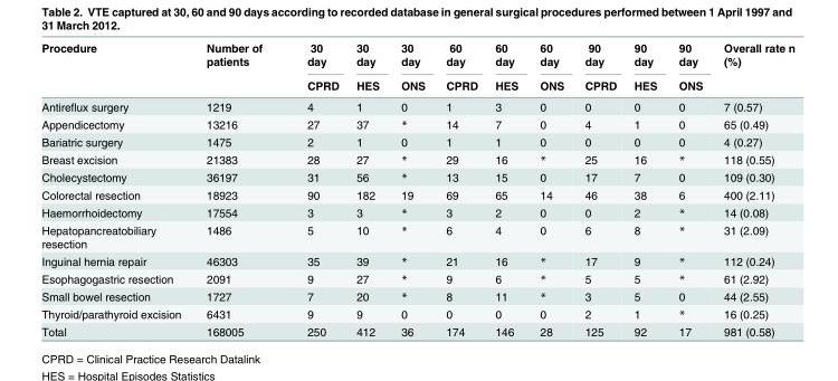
<table><thead><tr><td rowspan="2">Procedure</td><td rowspan="2">Number of patients</td><td rowspan="2">30 day CPRD</td><td rowspan="2">30 day HES</td><td rowspan="2">30 day ONS</td><td rowspan="2">60 day CPRD</td><td rowspan="2">60 day HES</td><td rowspan="2">60 day ONS</td><td rowspan="2">90 day CPRD</td><td rowspan="2">90 day HES</td><td rowspan="2">90 day ONS</td><td rowspan="2">Overall rate n (%)</td></tr><tr></tr></thead><tbody><tr><td>Antireflux surgery</td><td>1219</td><td>4</td><td>1</td><td>0</td><td>1</td><td>3</td><td>0</td><td>0</td><td>0</td><td>0</td><td>7 (0.57)</td></tr><tr><td>Appendicectomy</td><td>13216</td><td>27</td><td>37</td><td>*</td><td>14</td><td>7</td><td>0</td><td>4</td><td>1</td><td>0</td><td>65 (0.49)</td></tr><tr><td>Bariatric surgery</td><td>1475</td><td>2</td><td>1</td><td>0</td><td>1</td><td>1</td><td>0</td><td>0</td><td>0</td><td>0</td><td>4 (0.27)</td></tr><tr><td>Breast excision</td><td>21383</td><td>28</td><td>27</td><td>*</td><td>29</td><td>16</td><td>*</td><td>25</td><td>16</td><td>*</td><td>118 (0.55)</td></tr><tr><td>Cholecystectomy</td><td>36197</td><td>31</td><td>56</td><td>*</td><td>13</td><td>15</td><td>0</td><td>17</td><td>7</td><td>0</td><td>109 (0.30)</td></tr><tr><td>Colorectal resection</td><td>18923</td><td>90</td><td>182</td><td>19</td><td>69</td><td>65</td><td>14</td><td>46</td><td>38</td><td>6</td><td>400 (2.11)</td></tr><tr><td>Haemorrhoidectomy</td><td>17554</td><td>3</td><td>3</td><td>*</td><td>3</td><td>2</td><td>0</td><td>0</td><td>2</td><td>*</td><td>14 (0.08)</td></tr><tr><td>Hepatopancreatobiliary resection</td><td>1486</td><td>5</td><td>10</td><td>*</td><td>6</td><td>4</td><td>0</td><td>6</td><td>8</td><td>*</td><td>31 (2.09)</td></tr><tr><td>Inguinal hernia repair</td><td>46303</td><td>35</td><td>39</td><td>*</td><td>21</td><td>16</td><td>*</td><td>17</td><td>9</td><td>*</td><td>112 (0.24)</td></tr><tr><td>Esophagogastric resection</td><td>2091</td><td>9</td><td>27</td><td>*</td><td>9</td><td>6</td><td>*</td><td>5</td><td>5</td><td>*</td><td>61 (2.92)</td></tr><tr><td>Small bowel resection</td><td>1727</td><td>7</td><td>20</td><td>*</td><td>8</td><td>11</td><td>*</td><td>3</td><td>5</td><td>0</td><td>44 (2.55)</td></tr><tr><td>Thyroid/parathyroid excision</td><td>6431</td><td>9</td><td>9</td><td>0</td><td>0</td><td>0</td><td>0</td><td>2</td><td>1</td><td>*</td><td>16 (0.25)</td></tr><tr><td>Total</td><td>168005</td><td>250</td><td>412</td><td>36</td><td>174</td><td>146</td><td>28</td><td>125</td><td>92</td><td>17</td><td>981 (0.58)</td></tr></tbody></table>